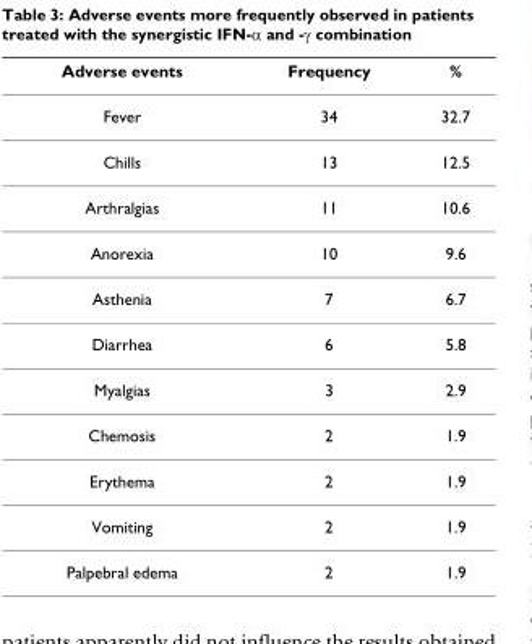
<table><thead><tr><td>Adverse events</td><td>Frequency</td><td>%</td></tr></thead><tbody><tr><td>Fever</td><td>34</td><td>32.7</td></tr><tr><td>Chills</td><td>13</td><td>12.5</td></tr><tr><td>Arthralgias</td><td>11</td><td>10.6</td></tr><tr><td>Anorexia</td><td>10</td><td>9.6</td></tr><tr><td>Asthenia</td><td>7</td><td>6.7</td></tr><tr><td>Diarrhea</td><td>6</td><td>5.8</td></tr><tr><td>Myalgias</td><td>3</td><td>2.9</td></tr><tr><td>Chemosis</td><td>2</td><td>1.9</td></tr><tr><td>Erythema</td><td>2</td><td>1.9</td></tr><tr><td>Vomiting</td><td>2</td><td>1.9</td></tr><tr><td>Palpebral edema</td><td>2</td><td>1.9</td></tr></tbody></table>